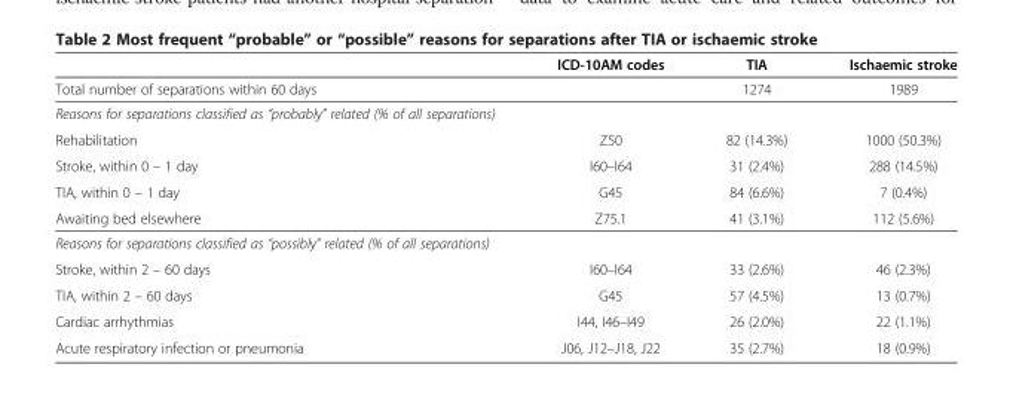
<table><thead><tr><td></td><td>ICD-10AM codes</td><td>TIA</td><td>Ischaemic stroke</td></tr></thead><tbody><tr><td>Total number of separations within 60 days</td><td></td><td>1274</td><td>1989</td></tr><tr><td colspan="4">Reasons for separations classified as “probably” related (% of all separations)</td></tr><tr><td>Rehabilitation</td><td>Z50</td><td>82 (14.3%)</td><td>1000 (50.3%)</td></tr><tr><td>Stroke, within 0 – 1 day</td><td>I60–I64</td><td>31 (2.4%)</td><td>288 (14.5%)</td></tr><tr><td>TIA, within 0 – 1 day</td><td>G45</td><td>84 (6.6%)</td><td>7 (0.4%)</td></tr><tr><td>Awaiting bed elsewhere</td><td>Z75.1</td><td>41 (3.1%)</td><td>112 (5.6%)</td></tr><tr><td colspan="4">Reasons for separations classified as “possibly” related (% of all separations)</td></tr><tr><td>Stroke, within 2 – 60 days</td><td>I60–I64</td><td>33 (2.6%)</td><td>46 (2.3%)</td></tr><tr><td>TIA, within 2 – 60 days</td><td>G45</td><td>57 (4.5%)</td><td>13 (0.7%)</td></tr><tr><td>Cardiac arrhythmias</td><td>I44, I46–I49</td><td>26 (2.0%)</td><td>22 (1.1%)</td></tr><tr><td>Acute respiratory infection or pneumonia</td><td>J06, J12–J18, J22</td><td>35 (2.7%)</td><td>18 (0.9%)</td></tr></tbody></table>